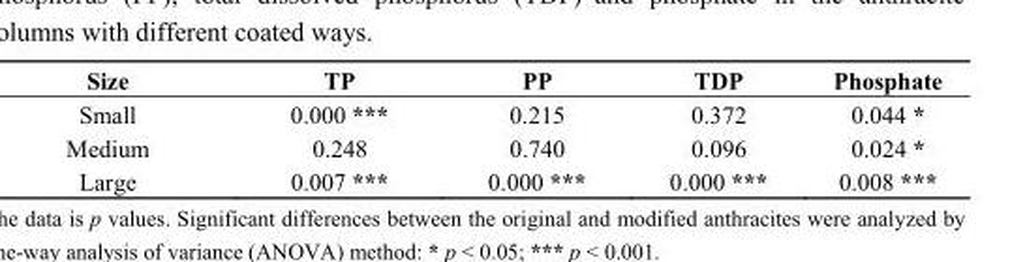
<table><thead><tr><td>Size</td><td>TP</td><td>PP</td><td>TDP</td><td>Phosphate</td></tr></thead><tbody><tr><td>Small</td><td>0.000 ***</td><td>0.215</td><td>0.372</td><td>0.044 *</td></tr><tr><td>Medium</td><td>0.248</td><td>0.740</td><td>0.096</td><td>0.024 *</td></tr><tr><td>Large</td><td>0.007 ***</td><td>0.000 ***</td><td>0.000 ***</td><td>0.008 ***</td></tr></tbody></table>